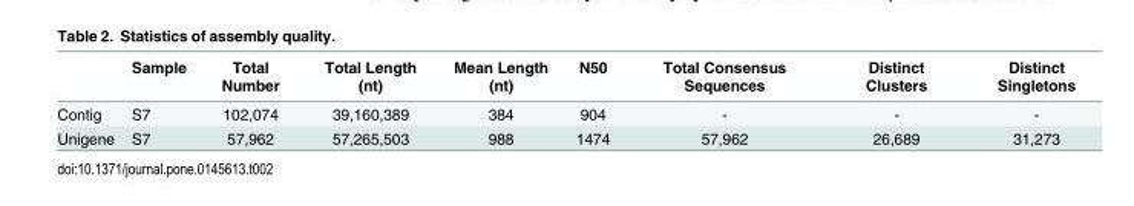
<table><thead><tr><td></td><td>Sample</td><td>Total Number</td><td>Total Length (nt)</td><td>Mean Length (nt)</td><td>N50</td><td>Total Consensus Sequences</td><td>Distinct Clusters</td><td>Distinct Singletons</td></tr></thead><tbody><tr><td>Contig</td><td>S7</td><td>102,074</td><td>39,160,389</td><td>384</td><td>904</td><td>-</td><td>-</td><td>-</td></tr><tr><td>Unigene</td><td>S7</td><td>57,962</td><td>57,265,503</td><td>988</td><td>1474</td><td>57,962</td><td>26,689</td><td>31,273</td></tr></tbody></table>